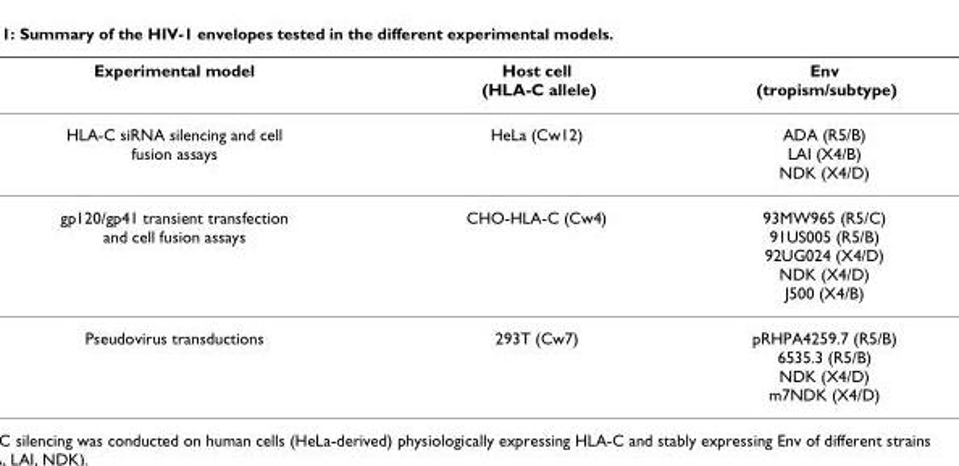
<table><thead><tr><td>Experimental model</td><td>Host cell (HLA-C allele)</td><td>Env (tropism/subtype)</td></tr></thead><tbody><tr><td>HLA-C siRNA silencing and cell fusion assays</td><td>HeLa (Cw12)</td><td>ADA (R5/B) LAI (X4/B) NDK (X4/D)</td></tr><tr><td>gp120/gp41 transient transfection and cell fusion assays</td><td>CHO-HLA-C (Cw4)</td><td>93MW965 (R5/C) 91US005 (R5/B) 92UG024 (X4/D) NDK (X4/D) J500 (X4/B)</td></tr><tr><td>Pseudovirus transductions</td><td>293T (Cw7)</td><td>pRHPA4259.7 (R5/B) 6535.3 (R5/B) NDK (X4/D) m7NDK (X4/D)</td></tr></tbody></table>